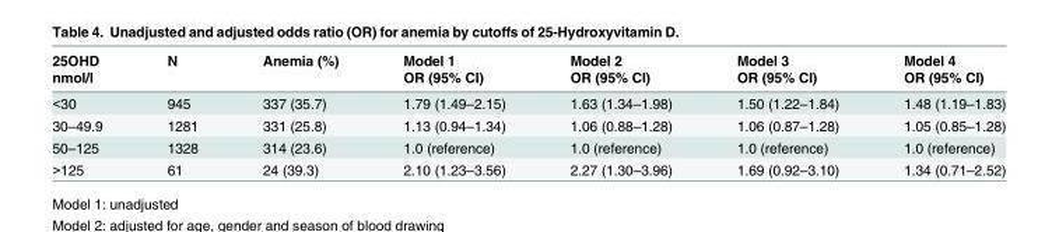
<table><thead><tr><td rowspan="2">25OHD nmol/l</td><td rowspan="2">N</td><td rowspan="2">Anemia (%)</td><td rowspan="2">Model 1 OR (95% CI)</td><td rowspan="2">Model 2 OR (95% CI)</td><td rowspan="2">Model 3 OR (95% CI)</td><td rowspan="2">Model 4 OR (95% CI)</td></tr><tr></tr></thead><tbody><tr><td>&lt;30</td><td>945</td><td>337 (35.7)</td><td>1.79 (1.49–2.15)</td><td>1.63 (1.34–1.98)</td><td>1.50 (1.22–1.84)</td><td>1.48 (1.19–1.83)</td></tr><tr><td>30–49.9</td><td>1281</td><td>331 (25.8)</td><td>1.13 (0.94–1.34)</td><td>1.06 (0.88–1.28)</td><td>1.06 (0.87–1.28)</td><td>1.05 (0.85–1.28)</td></tr><tr><td>50–125</td><td>1328</td><td>314 (23.6)</td><td>1.0 (reference)</td><td>1.0 (reference)</td><td>1.0 (reference)</td><td>1.0 (reference)</td></tr><tr><td>&gt;125</td><td>61</td><td>24 (39.3)</td><td>2.10 (1.23–3.56)</td><td>2.27 (1.30–3.96)</td><td>1.69 (0.92–3.10)</td><td>1.34 (0.71–2.52)</td></tr></tbody></table>